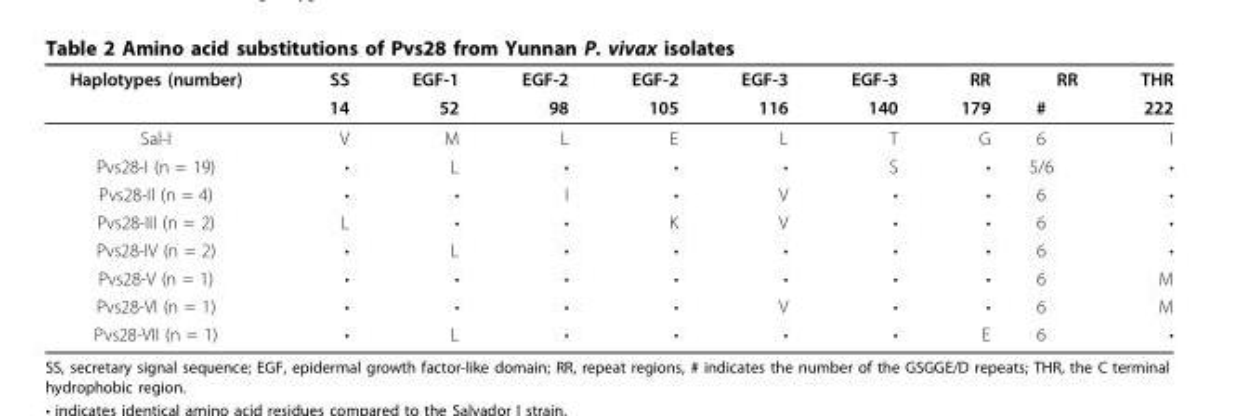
<table><thead><tr><td rowspan="2">Haplotypes (number)</td><td rowspan="2">SS 14</td><td rowspan="2">EGF-1 52</td><td rowspan="2">EGF-2 98</td><td rowspan="2">EGF-2 105</td><td rowspan="2">EGF-3 116</td><td rowspan="2">EGF-3 140</td><td rowspan="2">RR 179</td><td rowspan="2">RR #</td><td rowspan="2">THR 222</td></tr><tr></tr></thead><tbody><tr><td>Sal-I</td><td>V</td><td>M</td><td>L</td><td>E</td><td>L</td><td>T</td><td>G</td><td>6</td><td>I</td></tr><tr><td>Pvs28-I (n = 19)</td><td>•</td><td>L</td><td>•</td><td>•</td><td>•</td><td>S</td><td>•</td><td>5/6</td><td>•</td></tr><tr><td>Pvs28-II (n = 4)</td><td>•</td><td>•</td><td>I</td><td>•</td><td>V</td><td>•</td><td>•</td><td>6</td><td>•</td></tr><tr><td>Pvs28-III (n = 2)</td><td>L</td><td>•</td><td>•</td><td>K</td><td>V</td><td>•</td><td>•</td><td>6</td><td>•</td></tr><tr><td>Pvs28-IV (n = 2)</td><td>•</td><td>L</td><td>•</td><td>•</td><td>•</td><td>•</td><td>•</td><td>6</td><td>•</td></tr><tr><td>Pvs28-V (n = 1)</td><td>•</td><td>•</td><td>•</td><td>•</td><td>•</td><td>•</td><td>•</td><td>6</td><td>M</td></tr><tr><td>Pvs28-VI (n = 1)</td><td>•</td><td>•</td><td>•</td><td>•</td><td>V</td><td>•</td><td>•</td><td>6</td><td>M</td></tr><tr><td>Pvs28-VII (n = 1)</td><td>•</td><td>L</td><td>•</td><td>•</td><td>•</td><td>•</td><td>E</td><td>6</td><td>•</td></tr></tbody></table>